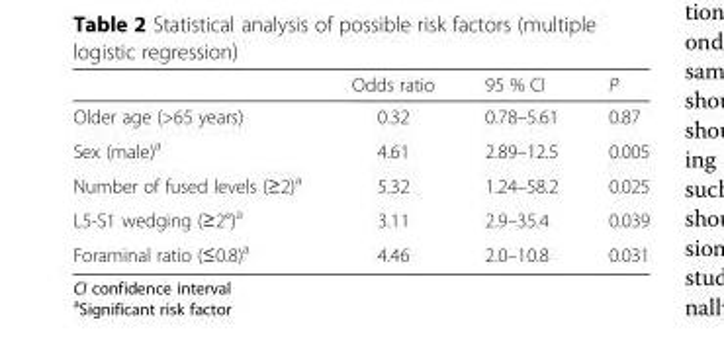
<table><thead><tr><td></td><td>Odds ratio</td><td>95 % CI</td><td>P</td></tr></thead><tbody><tr><td>Older age (&gt;65 years)</td><td>0.32</td><td>0.78–5.61</td><td>0.87</td></tr><tr><td>Sex (male)<sup>a</sup></td><td>4.61</td><td>2.89–12.5</td><td>0.005</td></tr><tr><td>Number of fused levels (≥2)<sup>a</sup></td><td>5.32</td><td>1.24–58.2</td><td>0.025</td></tr><tr><td>L5-S1 wedging (≥2°)<sup>a</sup></td><td>3.11</td><td>2.9–35.4</td><td>0.039</td></tr><tr><td>Foraminal ratio (≤0.8)<sup>a</sup></td><td>4.46</td><td>2.0–10.8</td><td>0.031</td></tr></tbody></table>